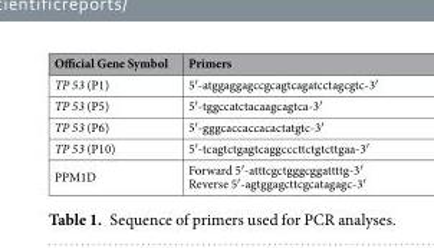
<table><thead><tr><td>Official Gene Symbol</td><td>Primers</td></tr></thead><tbody><tr><td>TP 53 (P1)</td><td>5′-atggaggagccgcagtcagatcctagcgtc-3′</td></tr><tr><td>TP 53 (P5)</td><td>5′-tggccatctacaagcagtca-3′</td></tr><tr><td>TP 53 (P6)</td><td>5′-gggcaccaccacactatgtc-3′</td></tr><tr><td>TP 53 (P10)</td><td>5′-tcagtctgagtcaggcccttctgtcttgaa-3′</td></tr><tr><td>PPM1D</td><td>Forward 5′-atttcgctgggcggattttg-3′ Reverse 5′-agtggagcttcgcatagagc-3′</td></tr></tbody></table>